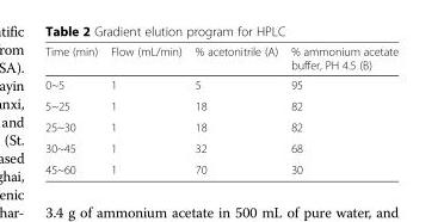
<table><thead><tr><td>Time (min)</td><td>Flow (mL/min)</td><td>% acetonitrile (A)</td><td>% ammonium acetate buffer, PH 4.5 (B)</td></tr></thead><tbody><tr><td>0~5</td><td>1</td><td>5</td><td>95</td></tr><tr><td>5~25</td><td>1</td><td>18</td><td>82</td></tr><tr><td>25~30</td><td>1</td><td>18</td><td>82</td></tr><tr><td>30~45</td><td>1</td><td>32</td><td>68</td></tr><tr><td>45~60</td><td>1</td><td>70</td><td>30</td></tr></tbody></table>